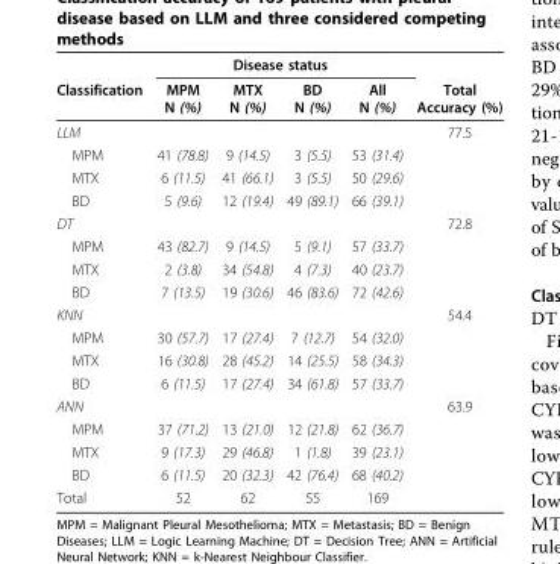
<table><thead><tr><td rowspan="2">Classification</td><td colspan="4">Disease status</td><td rowspan="2">Total Accuracy (%)</td></tr><tr><td>MPM N (%)</td><td>MTX N (%)</td><td>BD N (%)</td><td>All N (%)</td></tr></thead><tbody><tr><td>LLM</td><td></td><td></td><td></td><td></td><td>77.5</td></tr><tr><td>MPM</td><td>41 (78.8)</td><td>9 (14.5)</td><td>3 (5.5)</td><td>53 (31.4)</td><td></td></tr><tr><td>MTX</td><td>6 (11.5)</td><td>41 (66.1)</td><td>3 (5.5)</td><td>50 (29.6)</td><td></td></tr><tr><td>BD</td><td>5 (9.6)</td><td>12 (19.4)</td><td>49 (89.1)</td><td>66 (39.1)</td><td></td></tr><tr><td>DT</td><td></td><td></td><td></td><td></td><td>72.8</td></tr><tr><td>MPM</td><td>43 (82.7)</td><td>9 (14.5)</td><td>5 (9.1)</td><td>57 (33.7)</td><td></td></tr><tr><td>MTX</td><td>2 (3.8)</td><td>34 (54.8)</td><td>4 (7.3)</td><td>40 (23.7)</td><td></td></tr><tr><td>BD</td><td>7 (13.5)</td><td>19 (30.6)</td><td>46 (83.6)</td><td>72 (42.6)</td><td></td></tr><tr><td>KNN</td><td></td><td></td><td></td><td></td><td>54.4</td></tr><tr><td>MPM</td><td>30 (57.7)</td><td>17 (27.4)</td><td>7 (12.7)</td><td>54 (32.0)</td><td></td></tr><tr><td>MTX</td><td>16 (30.8)</td><td>28 (45.2)</td><td>14 (25.5)</td><td>58 (34.3)</td><td></td></tr><tr><td>BD</td><td>6 (11.5)</td><td>17 (27.4)</td><td>34 (61.8)</td><td>57 (33.7)</td><td></td></tr><tr><td>ANN</td><td></td><td></td><td></td><td></td><td>63.9</td></tr><tr><td>MPM</td><td>37 (71.2)</td><td>13 (21.0)</td><td>12 (21.8)</td><td>62 (36.7)</td><td></td></tr><tr><td>MTX</td><td>9 (17.3)</td><td>29 (46.8)</td><td>1 (1.8)</td><td>39 (23.1)</td><td></td></tr><tr><td>BD</td><td>6 (11.5)</td><td>20 (32.3)</td><td>42 (76.4)</td><td>68 (40.2)</td><td></td></tr><tr><td>Total</td><td>52</td><td>62</td><td>55</td><td>169</td><td></td></tr></tbody></table>